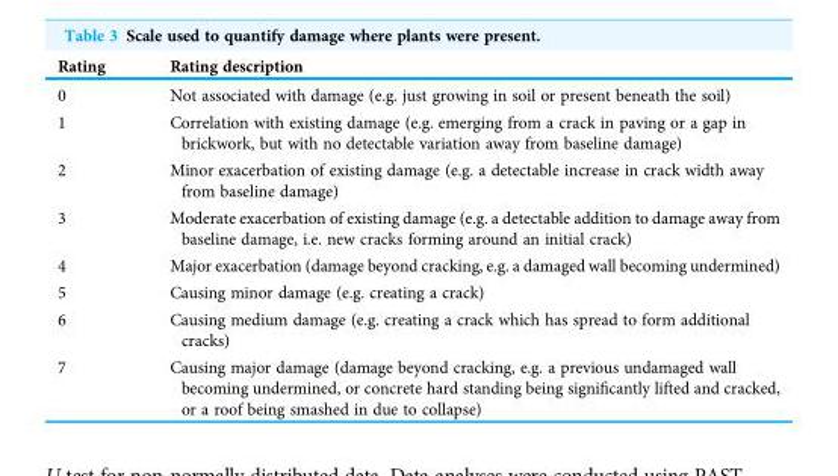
<table><thead><tr><td>Rating</td><td>Rating description</td></tr></thead><tbody><tr><td>0</td><td>Not associated with damage (e.g. just growing in soil or present beneath the soil)</td></tr><tr><td>1</td><td>Correlation with existing damage (e.g. emerging from a crack in paving or a gap in brickwork, but with no detectable variation away from baseline damage)</td></tr><tr><td>2</td><td>Minor exacerbation of existing damage (e.g. a detectable increase in crack width away from baseline damage)</td></tr><tr><td>3</td><td>Moderate exacerbation of existing damage (e.g. a detectable addition to damage away from baseline damage, i.e. new cracks forming around an initial crack)</td></tr><tr><td>4</td><td>Major exacerbation (damage beyond cracking, e.g. a damaged wall becoming undermined)</td></tr><tr><td>5</td><td>Causing minor damage (e.g. creating a crack)</td></tr><tr><td>6</td><td>Causing medium damage (e.g. creating a crack which has spread to form additional cracks)</td></tr><tr><td>7</td><td>Causing major damage (damage beyond cracking, e.g. a previous undamaged wall becoming undermined, or concrete hard standing being significantly lifted and cracked, or a roof being smashed in due to collapse)</td></tr></tbody></table>